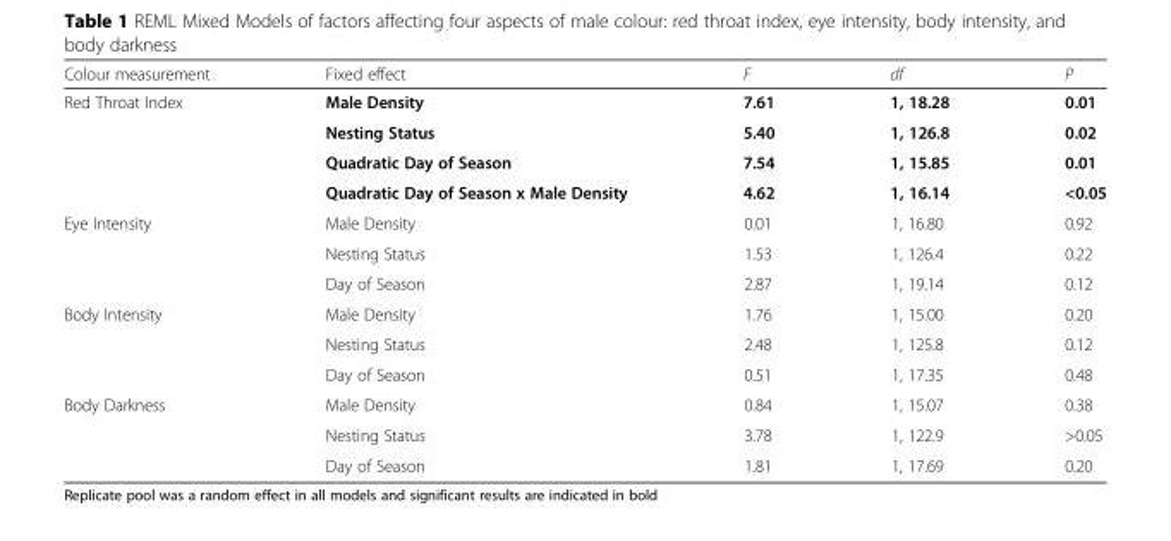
<table><thead><tr><td>Colour measurement</td><td>Fixed effect</td><td>F</td><td>df</td><td>P</td></tr></thead><tbody><tr><td rowspan="4">Red Throat Index</td><td>Male Density</td><td>7.61</td><td>1, 18.28</td><td>0.01</td></tr><tr><td>Nesting Status</td><td>5.40</td><td>1, 126.8</td><td>0.02</td></tr><tr><td>Quadratic Day of Season</td><td>7.54</td><td>1, 15.85</td><td>0.01</td></tr><tr><td>Quadratic Day of Season x Male Density</td><td>4.62</td><td>1, 16.14</td><td>&lt;0.05</td></tr><tr><td rowspan="3">Eye Intensity</td><td>Male Density</td><td>0.01</td><td>1, 16.80</td><td>0.92</td></tr><tr><td>Nesting Status</td><td>1.53</td><td>1, 126.4</td><td>0.22</td></tr><tr><td>Day of Season</td><td>2.87</td><td>1, 19.14</td><td>0.12</td></tr><tr><td rowspan="3">Body Intensity</td><td>Male Density</td><td>1.76</td><td>1, 15.00</td><td>0.20</td></tr><tr><td>Nesting Status</td><td>2.48</td><td>1, 125.8</td><td>0.12</td></tr><tr><td>Day of Season</td><td>0.51</td><td>1, 17.35</td><td>0.48</td></tr><tr><td rowspan="3">Body Darkness</td><td>Male Density</td><td>0.84</td><td>1, 15.07</td><td>0.38</td></tr><tr><td>Nesting Status</td><td>3.78</td><td>1, 122.9</td><td>&gt;0.05</td></tr><tr><td>Day of Season</td><td>1.81</td><td>1, 17.69</td><td>0.20</td></tr></tbody></table>